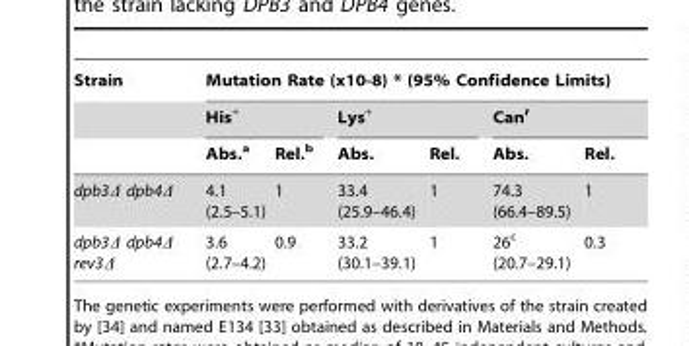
<table><thead><tr><td rowspan="3">Strain</td><td colspan="6">Mutation Rate (x10-8) * (95% Confidence Limits)</td></tr><tr><td colspan="2">His<sup>+</sup></td><td colspan="2">Lys<sup>+</sup></td><td colspan="2">Can<sup>r</sup></td></tr><tr><td>Abs.<sup>a</sup></td><td>Rel.<sup>b</sup></td><td>Abs.</td><td>Rel.</td><td>Abs.</td><td>Rel.</td></tr></thead><tbody><tr><td>dpb3Δ dpb4Δ</td><td>4.1 (2.5–5.1)</td><td>1</td><td>33.4 (25.9–46.4)</td><td>1</td><td>74.3 (66.4–89.5)</td><td>1</td></tr><tr><td>dpb3Δ dpb4Δ rev3Δ</td><td>3.6 (2.7–4.2)</td><td>0.9</td><td>33.2 (30.1–39.1)</td><td>1</td><td>26<sup>c</sup> (20.7–29.1)</td><td>0.3</td></tr></tbody></table>